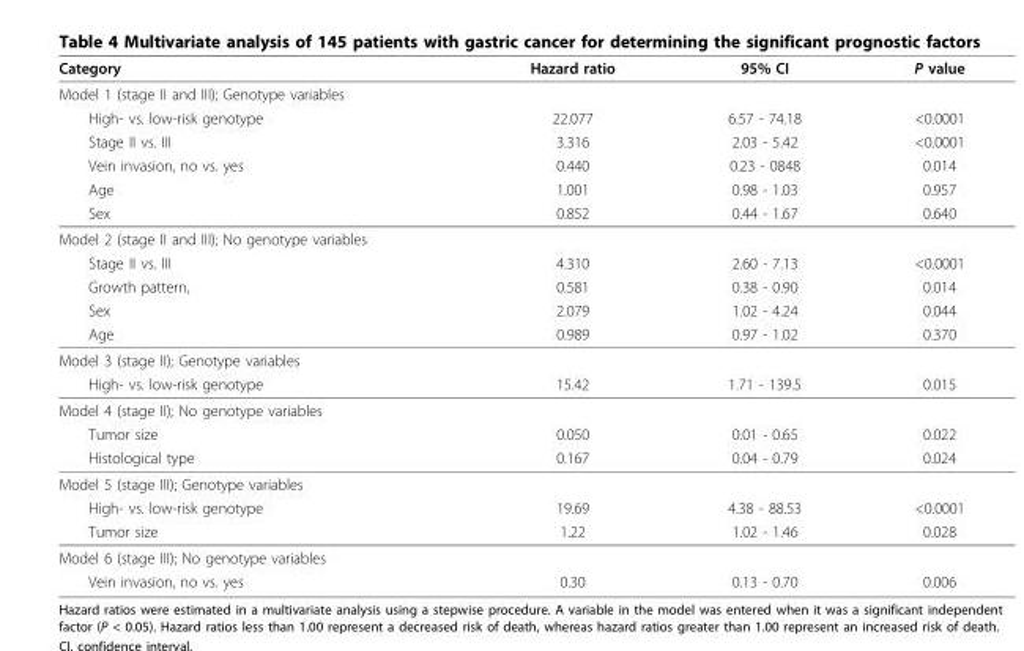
<table><thead><tr><td>Category</td><td>Hazard ratio</td><td>95% CI</td><td>P value</td></tr></thead><tbody><tr><td colspan="4">Model 1 (stage II and III); Genotype variables</td></tr><tr><td>High- vs. low-risk genotype</td><td>22.077</td><td>6.57 - 74.18</td><td>&lt;0.0001</td></tr><tr><td>Stage II vs. III</td><td>3.316</td><td>2.03 - 5.42</td><td>&lt;0.0001</td></tr><tr><td>Vein invasion, no vs. yes</td><td>0.440</td><td>0.23 - 0848</td><td>0.014</td></tr><tr><td>Age</td><td>1.001</td><td>0.98 - 1.03</td><td>0.957</td></tr><tr><td>Sex</td><td>0.852</td><td>0.44 - 1.67</td><td>0.640</td></tr><tr><td colspan="4">Model 2 (stage II and III); No genotype variables</td></tr><tr><td>Stage II vs. III</td><td>4.310</td><td>2.60 - 7.13</td><td>&lt;0.0001</td></tr><tr><td>Growth pattern,</td><td>0.581</td><td>0.38 - 0.90</td><td>0.014</td></tr><tr><td>Sex</td><td>2.079</td><td>1.02 - 4.24</td><td>0.044</td></tr><tr><td>Age</td><td>0.989</td><td>0.97 - 1.02</td><td>0.370</td></tr><tr><td colspan="4">Model 3 (stage II); Genotype variables</td></tr><tr><td>High- vs. low-risk genotype</td><td>15.42</td><td>1.71 - 139.5</td><td>0.015</td></tr><tr><td colspan="4">Model 4 (stage II); No genotype variables</td></tr><tr><td>Tumor size</td><td>0.050</td><td>0.01 - 0.65</td><td>0.022</td></tr><tr><td>Histological type</td><td>0.167</td><td>0.04 - 0.79</td><td>0.024</td></tr><tr><td colspan="4">Model 5 (stage III); Genotype variables</td></tr><tr><td>High- vs. low-risk genotype</td><td>19.69</td><td>4.38 - 88.53</td><td>&lt;0.0001</td></tr><tr><td>Tumor size</td><td>1.22</td><td>1.02 - 1.46</td><td>0.028</td></tr><tr><td colspan="4">Model 6 (stage III); No genotype variables</td></tr><tr><td>Vein invasion, no vs. yes</td><td>0.30</td><td>0.13 - 0.70</td><td>0.006</td></tr></tbody></table>